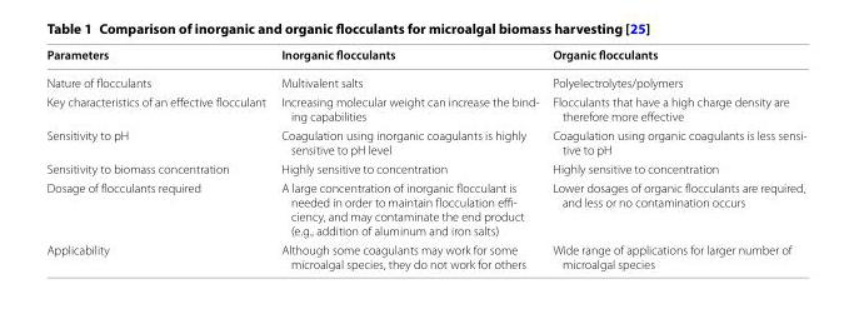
<table><thead><tr><td>Parameters</td><td>Inorganic flocculants</td><td>Organic flocculants</td></tr></thead><tbody><tr><td>Nature of flocculants</td><td>Multivalent salts</td><td>Polyelectrolytes/polymers</td></tr><tr><td>Key characteristics of an effective flocculant</td><td>Increasing molecular weight can increase the bind- ing capabilities</td><td>Flocculants that have a high charge density are therefore more effective</td></tr><tr><td>Sensitivity to pH</td><td>Coagulation using inorganic coagulants is highly sensitive to pH level</td><td>Coagulation using organic coagulants is less sensi- tive to pH</td></tr><tr><td>Sensitivity to biomass concentration</td><td>Highly sensitive to concentration</td><td>Highly sensitive to concentration</td></tr><tr><td>Dosage of flocculants required</td><td>A large concentration of inorganic flocculant is needed in order to maintain flocculation effi- ciency, and may contaminate the end product (e.g., addition of aluminum and iron salts)</td><td>Lower dosages of organic flocculants are required, and less or no contamination occurs</td></tr><tr><td>Applicability</td><td>Although some coagulants may work for some microalgal species, they do not work for others</td><td>Wide range of applications for larger number of microalgal species</td></tr></tbody></table>